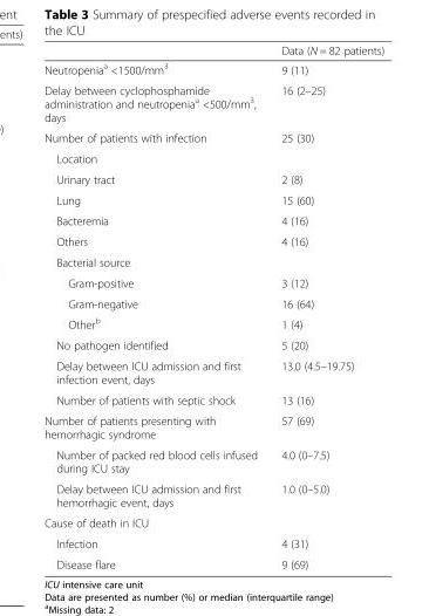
<table><thead><tr><td></td><td>Data (N = 82 patients)</td></tr></thead><tbody><tr><td>Neutropenia<sup>a</sup> &lt;1500/mm<sup>3</sup></td><td>9 (11)</td></tr><tr><td>Delay between cyclophosphamide administration and neutropenia<sup>a</sup> &lt;500/mm<sup>3</sup>, days</td><td>16 (2–25)</td></tr><tr><td>Number of patients with infection</td><td>25 (30)</td></tr><tr><td colspan="2">Location</td></tr><tr><td>Urinary tract</td><td>2 (8)</td></tr><tr><td>Lung</td><td>15 (60)</td></tr><tr><td>Bacteremia</td><td>4 (16)</td></tr><tr><td>Others</td><td>4 (16)</td></tr><tr><td colspan="2">Bacterial source</td></tr><tr><td>Gram-positive</td><td>3 (12)</td></tr><tr><td>Gram-negative</td><td>16 (64)</td></tr><tr><td>Other<sup>b</sup></td><td>1 (4)</td></tr><tr><td>No pathogen identified</td><td>5 (20)</td></tr><tr><td>Delay between ICU admission and first infection event, days</td><td>13.0 (4.5–19.75)</td></tr><tr><td>Number of patients with septic shock</td><td>13 (16)</td></tr><tr><td>Number of patients presenting with hemorrhagic syndrome</td><td>57 (69)</td></tr><tr><td>Number of packed red blood cells infused during ICU stay</td><td>4.0 (0–7.5)</td></tr><tr><td>Delay between ICU admission and first hemorrhagic event, days</td><td>1.0 (0–5.0)</td></tr><tr><td colspan="2">Cause of death in ICU</td></tr><tr><td>Infection</td><td>4 (31)</td></tr><tr><td>Disease flare</td><td>9 (69)</td></tr></tbody></table>